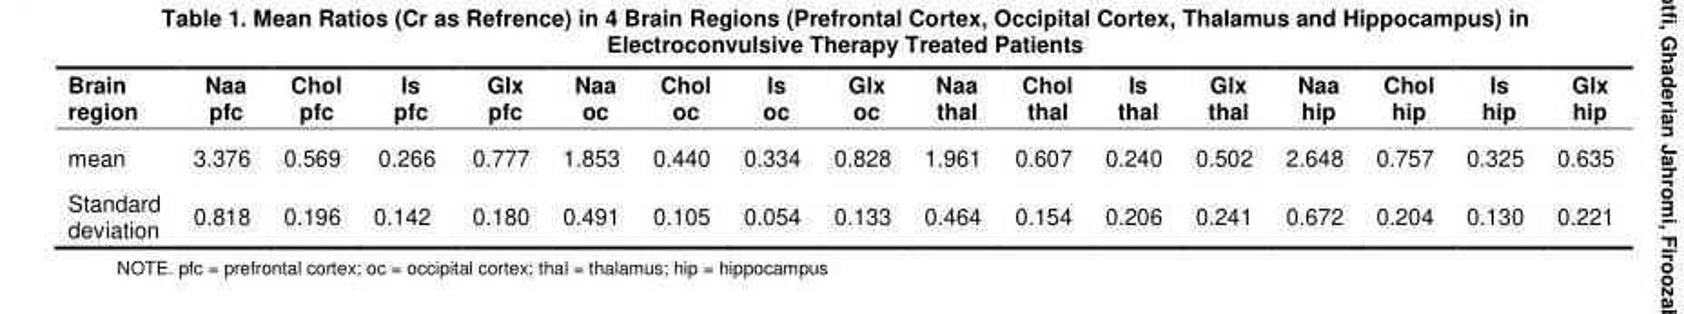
<table><thead><tr><td>Brain region</td><td>Naa pfc</td><td>Chol pfc</td><td>Is pfc</td><td>Glx pfc</td><td>Naa oc</td><td>Chol oc</td><td>Is oc</td><td>Glx oc</td><td>Naa thal</td><td>Chol thal</td><td>Is thal</td><td>Glx thal</td><td>Naa hip</td><td>Chol hip</td><td>Is hip</td><td>Glx hip</td></tr></thead><tbody><tr><td>mean</td><td>3.376</td><td>0.569</td><td>0.266</td><td>0.777</td><td>1.853</td><td>0.440</td><td>0.334</td><td>0.828</td><td>1.961</td><td>0.607</td><td>0.240</td><td>0.502</td><td>2.648</td><td>0.757</td><td>0.325</td><td>0.635</td></tr><tr><td>Standard deviation</td><td>0.818</td><td>0.196</td><td>0.142</td><td>0.180</td><td>0.491</td><td>0.105</td><td>0.054</td><td>0.133</td><td>0.464</td><td>0.154</td><td>0.206</td><td>0.241</td><td>0.672</td><td>0.204</td><td>0.130</td><td>0.221</td></tr></tbody></table>